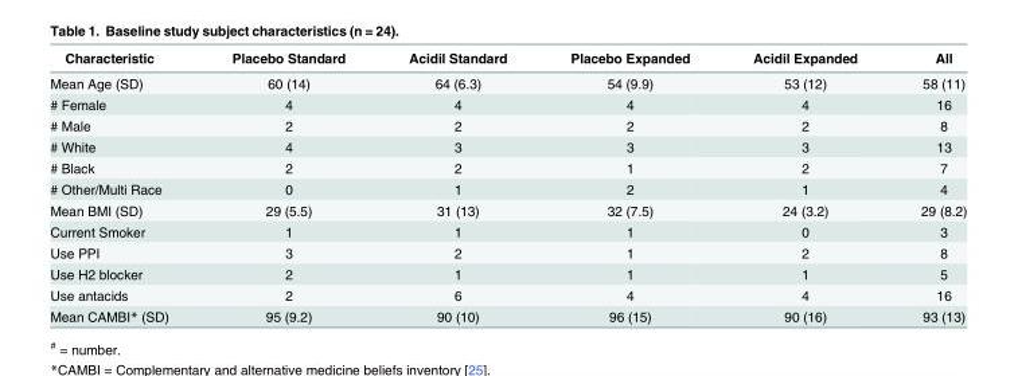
<table><thead><tr><td>Characteristic</td><td>Placebo Standard</td><td>Acidil Standard</td><td>Placebo Expanded</td><td>Acidil Expanded</td><td>All</td></tr></thead><tbody><tr><td>Mean Age (SD)</td><td>60 (14)</td><td>64 (6.3)</td><td>54 (9.9)</td><td>53 (12)</td><td>58 (11)</td></tr><tr><td># Female</td><td>4</td><td>4</td><td>4</td><td>4</td><td>16</td></tr><tr><td># Male</td><td>2</td><td>2</td><td>2</td><td>2</td><td>8</td></tr><tr><td># White</td><td>4</td><td>3</td><td>3</td><td>3</td><td>13</td></tr><tr><td># Black</td><td>2</td><td>2</td><td>1</td><td>2</td><td>7</td></tr><tr><td># Other/Multi Race</td><td>0</td><td>1</td><td>2</td><td>1</td><td>4</td></tr><tr><td>Mean BMI (SD)</td><td>29 (5.5)</td><td>31 (13)</td><td>32 (7.5)</td><td>24 (3.2)</td><td>29 (8.2)</td></tr><tr><td>Current Smoker</td><td>1</td><td>1</td><td>1</td><td>0</td><td>3</td></tr><tr><td>Use PPI</td><td>3</td><td>2</td><td>1</td><td>2</td><td>8</td></tr><tr><td>Use H2 blocker</td><td>2</td><td>1</td><td>1</td><td>1</td><td>5</td></tr><tr><td>Use antacids</td><td>2</td><td>6</td><td>4</td><td>4</td><td>16</td></tr><tr><td>Mean CAMBI* (SD)</td><td>95 (9.2)</td><td>90 (10)</td><td>96 (15)</td><td>90 (16)</td><td>93 (13)</td></tr></tbody></table>